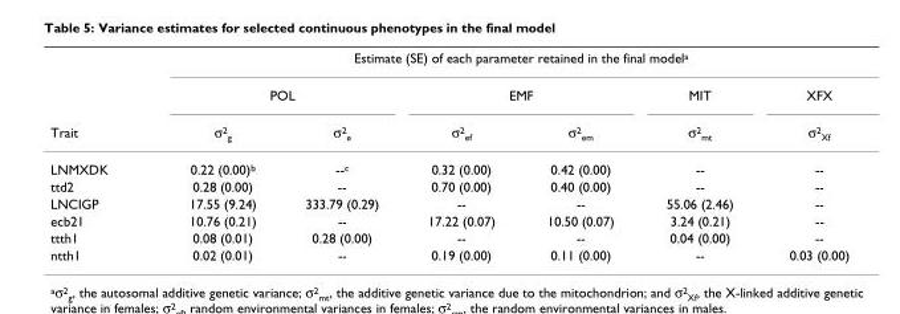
<table><thead><tr><td rowspan="3">Trait</td><td colspan="6">Estimate (SE) of each parameter retained in the final modela</td></tr><tr><td colspan="2">POL</td><td colspan="2">EMF</td><td rowspan="2">MIT σ2mt</td><td rowspan="2">XFX σ2Xf</td></tr><tr><td>σ2g</td><td>σ2e</td><td>σ2ef</td><td>σ2em</td></tr></thead><tbody><tr><td>LNMXDK</td><td>0.22 (0.00)b</td><td>--c</td><td>0.32 (0.00)</td><td>0.42 (0.00)</td><td>--</td><td>--</td></tr><tr><td>ttd2</td><td>0.28 (0.00)</td><td>--</td><td>0.70 (0.00)</td><td>0.40 (0.00)</td><td>--</td><td>--</td></tr><tr><td>LNCIGP</td><td>17.55 (9.24)</td><td>333.79 (0.29)</td><td>--</td><td>--</td><td>55.06 (2.46)</td><td>--</td></tr><tr><td>ecb21</td><td>10.76 (0.21)</td><td>--</td><td>17.22 (0.07)</td><td>10.50 (0.07)</td><td>3.24 (0.21)</td><td>--</td></tr><tr><td>ttth1</td><td>0.08 (0.01)</td><td>0.28 (0.00)</td><td>--</td><td>--</td><td>0.04 (0.00)</td><td>--</td></tr><tr><td>ntth1</td><td>0.02 (0.01)</td><td>--</td><td>0.19 (0.00)</td><td>0.11 (0.00)</td><td>--</td><td>0.03 (0.00)</td></tr></tbody></table>